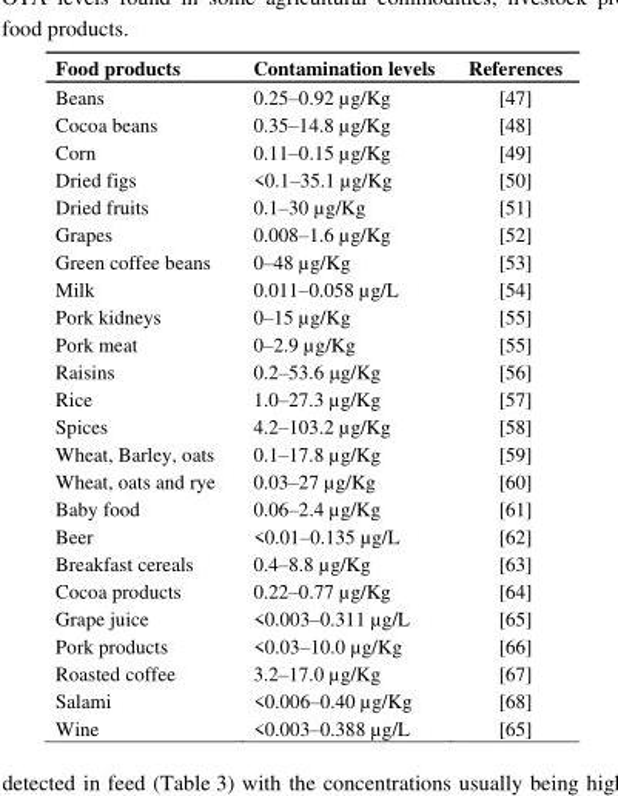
<table><thead><tr><td>Food products</td><td>Contamination levels</td><td>References</td></tr></thead><tbody><tr><td>Beans</td><td>0.25–0.92 µg/Kg</td><td>[47]</td></tr><tr><td>Cocoa beans</td><td>0.35–14.8 µg/Kg</td><td>[48]</td></tr><tr><td>Corn</td><td>0.11–0.15 µg/Kg</td><td>[49]</td></tr><tr><td>Dried figs</td><td>&lt;0.1–35.1 µg/Kg</td><td>[50]</td></tr><tr><td>Dried fruits</td><td>0.1–30 µg/Kg</td><td>[51]</td></tr><tr><td>Grapes</td><td>0.008–1.6 µg/Kg</td><td>[52]</td></tr><tr><td>Green coffee beans</td><td>0–48 µg/Kg</td><td>[53]</td></tr><tr><td>Milk</td><td>0.011–0.058 µg/L</td><td>[54]</td></tr><tr><td>Pork kidneys</td><td>0–15 µg/Kg</td><td>[55]</td></tr><tr><td>Pork meat</td><td>0–2.9 µg/Kg</td><td>[55]</td></tr><tr><td>Raisins</td><td>0.2–53.6 μg/Kg</td><td>[56]</td></tr><tr><td>Rice</td><td>1.0–27.3 µg/Kg</td><td>[57]</td></tr><tr><td>Spices</td><td>4.2–103.2 µg/Kg</td><td>[58]</td></tr><tr><td>Wheat, Barley, oats</td><td>0.1–17.8 µg/Kg</td><td>[59]</td></tr><tr><td>Wheat, oats and rye</td><td>0.03–27 µg/Kg</td><td>[60]</td></tr><tr><td>Baby food</td><td>0.06–2.4 µg/Kg</td><td>[61]</td></tr><tr><td>Beer</td><td>&lt;0.01–0.135 µg/L</td><td>[62]</td></tr><tr><td>Breakfast cereals</td><td>0.4–8.8 µg/Kg</td><td>[63]</td></tr><tr><td>Cocoa products</td><td>0.22–0.77 µg/Kg</td><td>[64]</td></tr><tr><td>Grape juice</td><td>&lt;0.003–0.311 µg/L</td><td>[65]</td></tr><tr><td>Pork products</td><td>&lt;0.03–10.0 µg/Kg</td><td>[66]</td></tr><tr><td>Roasted coffee</td><td>3.2–17.0 µg/Kg</td><td>[67]</td></tr><tr><td>Salami</td><td>&lt;0.006–0.40 µg/Kg</td><td>[68]</td></tr><tr><td>Wine</td><td>&lt;0.003–0.388 µg/L</td><td>[65]</td></tr></tbody></table>